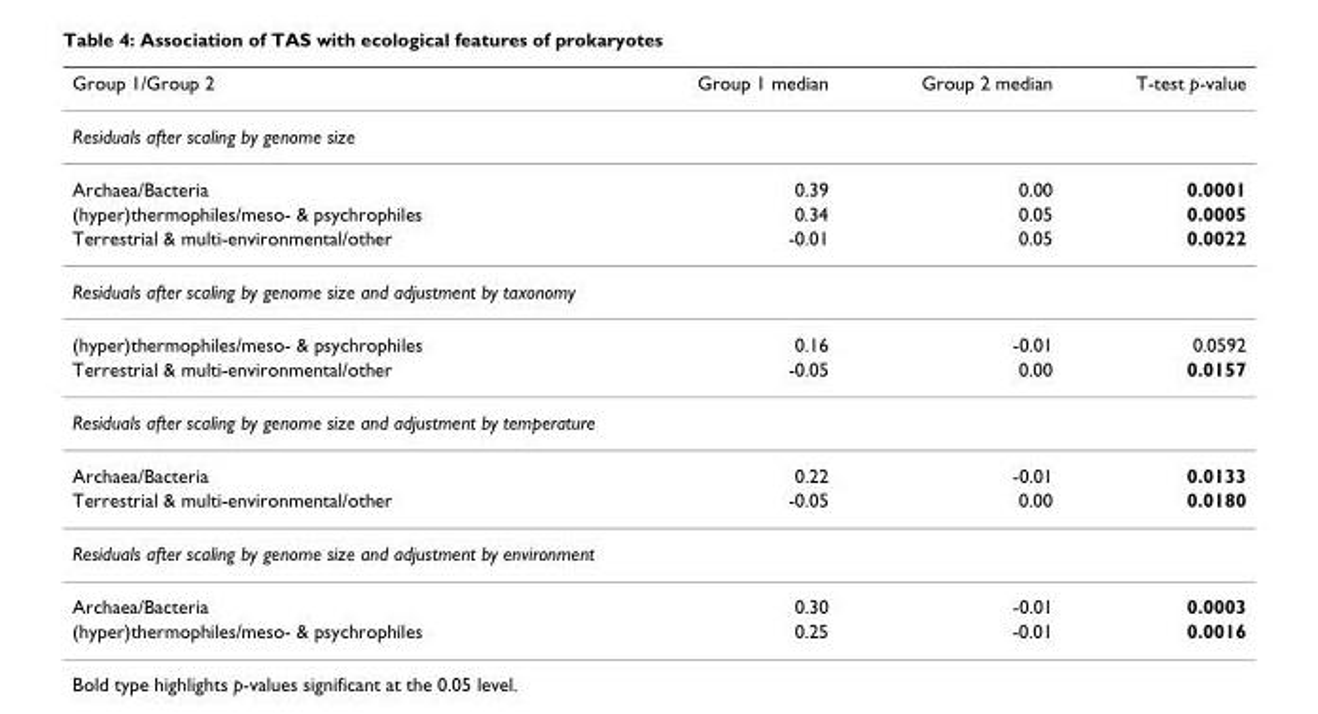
<table><thead><tr><td>Group 1/Group 2</td><td>Group 1 median</td><td>Group 2 median</td><td>T-test p-value</td></tr></thead><tbody><tr><td colspan="4">Residuals after scaling by genome size</td></tr><tr><td>Archaea/Bacteria</td><td>0.39</td><td>0.00</td><td>0.0001</td></tr><tr><td>(hyper)thermophiles/meso- &amp; psychrophiles</td><td>0.34</td><td>0.05</td><td>0.0005</td></tr><tr><td>Terrestrial &amp; multi-environmental/other</td><td>-0.01</td><td>0.05</td><td>0.0022</td></tr><tr><td colspan="4">Residuals after scaling by genome size and adjustment by taxonomy</td></tr><tr><td>(hyper)thermophiles/meso- &amp; psychrophiles</td><td>0.16</td><td>-0.01</td><td>0.0592</td></tr><tr><td>Terrestrial &amp; multi-environmental/other</td><td>-0.05</td><td>0.00</td><td>0.0157</td></tr><tr><td colspan="4">Residuals after scaling by genome size and adjustment by temperature</td></tr><tr><td>Archaea/Bacteria</td><td>0.22</td><td>-0.01</td><td>0.0133</td></tr><tr><td>Terrestrial &amp; multi-environmental/other</td><td>-0.05</td><td>0.00</td><td>0.0180</td></tr><tr><td colspan="4">Residuals after scaling by genome size and adjustment by environment</td></tr><tr><td>Archaea/Bacteria</td><td>0.30</td><td>-0.01</td><td>0.0003</td></tr><tr><td>(hyper)thermophiles/meso- &amp; psychrophiles</td><td>0.25</td><td>-0.01</td><td>0.0016</td></tr></tbody></table>